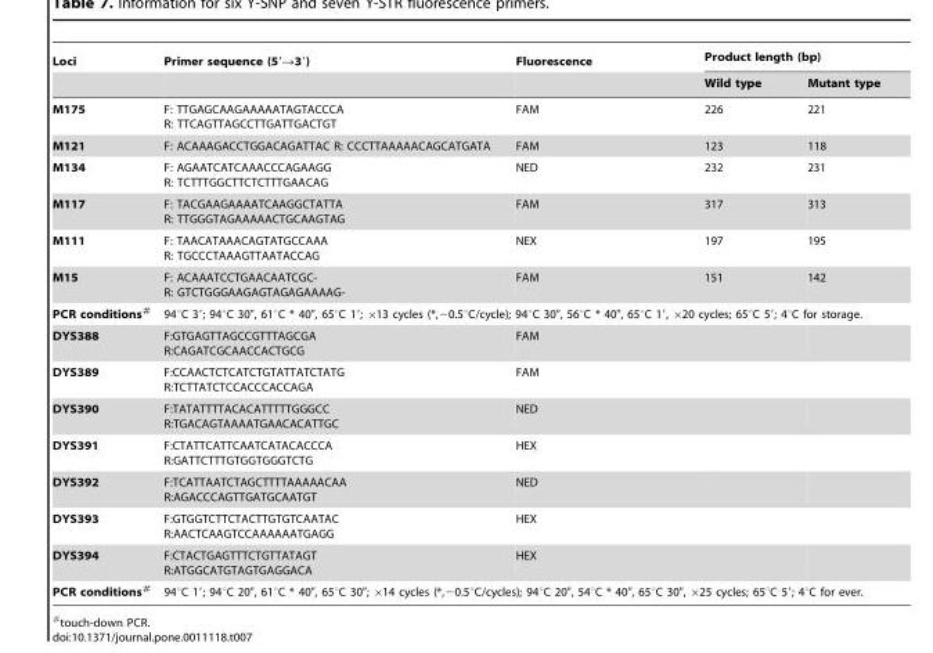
<table><thead><tr><td rowspan="2">Loci</td><td rowspan="2">Primer sequence (5′→3′)</td><td rowspan="2">Fluorescence</td><td colspan="2">Product length (bp)</td></tr><tr><td>Wild type</td><td>Mutant type</td></tr></thead><tbody><tr><td>M175</td><td>F: TTGAGCAAGAAAAATAGTACCCA R: TTCAGTTAGCCTTGATTGACTGT</td><td>FAM</td><td>226</td><td>221</td></tr><tr><td>M121</td><td>F: ACAAAGACCTGGACAGATTAC R: CCCTTAAAAACAGCATGATA</td><td>FAM</td><td>123</td><td>118</td></tr><tr><td>M134</td><td>F: AGAATCATCAAACCCAGAAGG R: TCTTTGGCTTCTCTTTGAACAG</td><td>NED</td><td>232</td><td>231</td></tr><tr><td>M117</td><td>F: TACGAAGAAAATCAAGGCTATTA R: TTGGGTAGAAAAACTGCAAGTAG</td><td>FAM</td><td>317</td><td>313</td></tr><tr><td>M111</td><td>F: TAACATAAACAGTATGCCAAA R: TGCCCTAAAGTTAATACCAG</td><td>NEX</td><td>197</td><td>195</td></tr><tr><td>M15</td><td>F: ACAAATCCTGAACAATCGC- R: GTCTGGGAAGAGTAGAGAAAAG-</td><td>FAM</td><td>151</td><td>142</td></tr><tr><td>PCR conditions#</td><td colspan="4">94°C 3′; 94°C 30″, 61°C * 40″, 65°C 1′; ×13 cycles (*,−0.5°C/cycle); 94°C 30″, 56°C * 40″, 65°C 1′, ×20 cycles; 65°C 5′; 4°C for storage.</td></tr><tr><td>DYS388</td><td>F:GTGAGTTAGCCGTTTAGCGA R:CAGATCGCAACCACTGCG</td><td>FAM</td><td></td><td></td></tr><tr><td>DYS389</td><td>F:CCAACTCTCATCTGTATTATCTATG R:TCTTATCTCCACCCACCAGA</td><td>FAM</td><td></td><td></td></tr><tr><td>DYS390</td><td>F:TATATTTTACACATTTTTGGGCC R:TGACAGTAAAATGAACACATTGC</td><td>NED</td><td></td><td></td></tr><tr><td>DYS391</td><td>F:CTATTCATTCAATCATACACCCA R:GATTCTTTGTGGTGGGTCTG</td><td>HEX</td><td></td><td></td></tr><tr><td>DYS392</td><td>F:TCATTAATCTAGCTTTTAAAAACAA R:AGACCCAGTTGATGCAATGT</td><td>NED</td><td></td><td></td></tr><tr><td>DYS393</td><td>F:GTGGTCTTCTACTTGTGTCAATAC R:AACTCAAGTCCAAAAAATGAGG</td><td>HEX</td><td></td><td></td></tr><tr><td>DYS394</td><td>F:CTACTGAGTTTCTGTTATAGT R:ATGGCATGTAGTGAGGACA</td><td>HEX</td><td></td><td></td></tr><tr><td>PCR conditions#</td><td colspan="4">94°C 1′; 94°C 20″, 61°C * 40″, 65°C 30″; ×14 cycles (*,−0.5°C/cycles); 94°C 20″, 54°C * 40″, 65°C 30″, ×25 cycles; 65°C 5′; 4°C for ever.</td></tr></tbody></table>